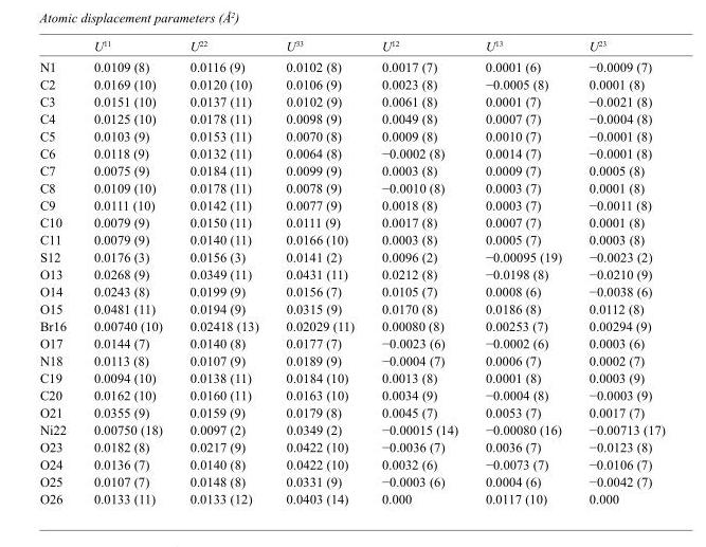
<table><thead><tr><td></td><td>U<sup>11</sup></td><td>U<sup>22</sup></td><td>U<sup>33</sup></td><td>U<sup>12</sup></td><td>U<sup>13</sup></td><td>U<sup>23</sup></td></tr></thead><tbody><tr><td>N1</td><td>0.0109 (8)</td><td>0.0116 (9)</td><td>0.0102 (8)</td><td>0.0017 (7)</td><td>0.0001 (6)</td><td>−0.0009 (7)</td></tr><tr><td>C2</td><td>0.0169 (10)</td><td>0.0120 (10)</td><td>0.0106 (9)</td><td>0.0023 (8)</td><td>−0.0005 (8)</td><td>0.0001 (8)</td></tr><tr><td>C3</td><td>0.0151 (10)</td><td>0.0137 (11)</td><td>0.0102 (9)</td><td>0.0061 (8)</td><td>0.0001 (7)</td><td>−0.0021 (8)</td></tr><tr><td>C4</td><td>0.0125 (10)</td><td>0.0178 (11)</td><td>0.0098 (9)</td><td>0.0049 (8)</td><td>0.0007 (7)</td><td>−0.0004 (8)</td></tr><tr><td>C5</td><td>0.0103 (9)</td><td>0.0153 (11)</td><td>0.0070 (8)</td><td>0.0009 (8)</td><td>0.0010 (7)</td><td>−0.0001 (8)</td></tr><tr><td>C6</td><td>0.0118 (9)</td><td>0.0132 (11)</td><td>0.0064 (8)</td><td>−0.0002 (8)</td><td>0.0014 (7)</td><td>−0.0001 (8)</td></tr><tr><td>C7</td><td>0.0075 (9)</td><td>0.0184 (11)</td><td>0.0099 (9)</td><td>0.0003 (8)</td><td>0.0009 (7)</td><td>0.0005 (8)</td></tr><tr><td>C8</td><td>0.0109 (10)</td><td>0.0178 (11)</td><td>0.0078 (9)</td><td>−0.0010 (8)</td><td>0.0003 (7)</td><td>0.0001 (8)</td></tr><tr><td>C9</td><td>0.0111 (10)</td><td>0.0142 (11)</td><td>0.0077 (9)</td><td>0.0018 (8)</td><td>0.0003 (7)</td><td>−0.0011 (8)</td></tr><tr><td>C10</td><td>0.0079 (9)</td><td>0.0150 (11)</td><td>0.0111 (9)</td><td>0.0017 (8)</td><td>0.0007 (7)</td><td>0.0001 (8)</td></tr><tr><td>C11</td><td>0.0079 (9)</td><td>0.0140 (11)</td><td>0.0166 (10)</td><td>0.0003 (8)</td><td>0.0005 (7)</td><td>0.0003 (8)</td></tr><tr><td>S12</td><td>0.0176 (3)</td><td>0.0156 (3)</td><td>0.0141 (2)</td><td>0.0096 (2)</td><td>−0.00095 (19)</td><td>−0.0023 (2)</td></tr><tr><td>O13</td><td>0.0268 (9)</td><td>0.0349 (11)</td><td>0.0431 (11)</td><td>0.0212 (8)</td><td>−0.0198 (8)</td><td>−0.0210 (9)</td></tr><tr><td>O14</td><td>0.0243 (8)</td><td>0.0199 (9)</td><td>0.0156 (7)</td><td>0.0105 (7)</td><td>0.0008 (6)</td><td>−0.0038 (6)</td></tr><tr><td>O15</td><td>0.0481 (11)</td><td>0.0194 (9)</td><td>0.0315 (9)</td><td>0.0170 (8)</td><td>0.0186 (8)</td><td>0.0112 (8)</td></tr><tr><td>Br16</td><td>0.00740 (10)</td><td>0.02418 (13)</td><td>0.02029 (11)</td><td>0.00080 (8)</td><td>0.00253 (7)</td><td>0.00294 (9)</td></tr><tr><td>O17</td><td>0.0144 (7)</td><td>0.0140 (8)</td><td>0.0177 (7)</td><td>−0.0023 (6)</td><td>−0.0002 (6)</td><td>0.0003 (6)</td></tr><tr><td>N18</td><td>0.0113 (8)</td><td>0.0107 (9)</td><td>0.0189 (9)</td><td>−0.0004 (7)</td><td>0.0006 (7)</td><td>0.0002 (7)</td></tr><tr><td>C19</td><td>0.0094 (10)</td><td>0.0138 (11)</td><td>0.0184 (10)</td><td>0.0013 (8)</td><td>0.0001 (8)</td><td>0.0003 (9)</td></tr><tr><td>C20</td><td>0.0162 (10)</td><td>0.0160 (11)</td><td>0.0163 (10)</td><td>0.0034 (9)</td><td>−0.0004 (8)</td><td>−0.0003 (9)</td></tr><tr><td>O21</td><td>0.0355 (9)</td><td>0.0159 (9)</td><td>0.0179 (8)</td><td>0.0045 (7)</td><td>0.0053 (7)</td><td>0.0017 (7)</td></tr><tr><td>Ni22</td><td>0.00750 (18)</td><td>0.0097 (2)</td><td>0.0349 (2)</td><td>−0.00015 (14)</td><td>−0.00080 (16)</td><td>−0.00713 (17)</td></tr><tr><td>O23</td><td>0.0182 (8)</td><td>0.0217 (9)</td><td>0.0422 (10)</td><td>−0.0036 (7)</td><td>0.0036 (7)</td><td>−0.0123 (8)</td></tr><tr><td>O24</td><td>0.0136 (7)</td><td>0.0140 (8)</td><td>0.0422 (10)</td><td>0.0032 (6)</td><td>−0.0073 (7)</td><td>−0.0106 (7)</td></tr><tr><td>O25</td><td>0.0107 (7)</td><td>0.0148 (8)</td><td>0.0331 (9)</td><td>−0.0003 (6)</td><td>0.0004 (6)</td><td>−0.0042 (7)</td></tr><tr><td>O26</td><td>0.0133 (11)</td><td>0.0133 (12)</td><td>0.0403 (14)</td><td>0.000</td><td>0.0117 (10)</td><td>0.000</td></tr></tbody></table>